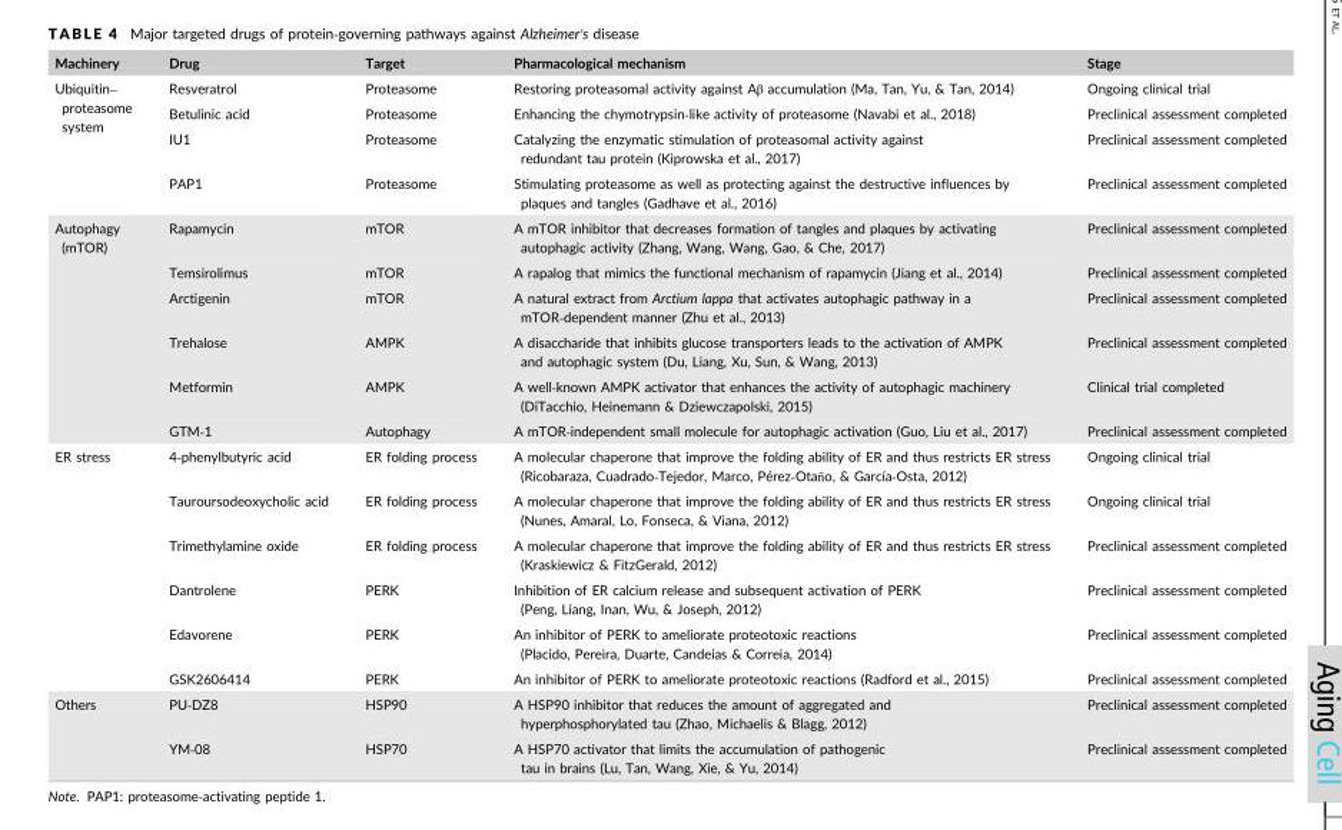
<table><thead><tr><td>Machinery</td><td>Drug</td><td>Target</td><td>Pharmacological mechanism</td><td>Stage</td></tr></thead><tbody><tr><td rowspan="4">Ubiquitin– proteasome system</td><td>Resveratrol</td><td>Proteasome</td><td>Restoring proteasomal activity against Aβ accumulation (Ma, Tan, Yu, &amp; Tan, 2014)</td><td>Ongoing clinical trial</td></tr><tr><td>Betulinic acid</td><td>Proteasome</td><td>Enhancing the chymotrypsin‐like activity of proteasome (Navabi et al., 2018)</td><td>Preclinical assessment completed</td></tr><tr><td>IU1</td><td>Proteasome</td><td>Catalyzing the enzymatic stimulation of proteasomal activity against redundant tau protein (Kiprowska et al., 2017)</td><td>Preclinical assessment completed</td></tr><tr><td>PAP1</td><td>Proteasome</td><td>Stimulating proteasome as well as protecting against the destructive influences by plaques and tangles (Gadhave et al., 2016)</td><td>Preclinical assessment completed</td></tr><tr><td rowspan="6">Autophagy (mTOR)</td><td>Rapamycin</td><td>mTOR</td><td>A mTOR inhibitor that decreases formation of tangles and plaques by activating autophagic activity (Zhang, Wang, Wang, Gao, &amp; Che, 2017)</td><td>Preclinical assessment completed</td></tr><tr><td>Temsirolimus</td><td>mTOR</td><td>A rapalog that mimics the functional mechanism of rapamycin (Jiang et al., 2014)</td><td>Preclinical assessment completed</td></tr><tr><td>Arctigenin</td><td>mTOR</td><td>A natural extract from Arctium lappa that activates autophagic pathway in a mTOR‐dependent manner (Zhu et al., 2013)</td><td>Preclinical assessment completed</td></tr><tr><td>Trehalose</td><td>AMPK</td><td>A disaccharide that inhibits glucose transporters leads to the activation of AMPK and autophagic system (Du, Liang, Xu, Sun, &amp; Wang, 2013)</td><td>Preclinical assessment completed</td></tr><tr><td>Metformin</td><td>AMPK</td><td>A well‐known AMPK activator that enhances the activity of autophagic machinery (DiTacchio, Heinemann &amp; Dziewczapolski, 2015)</td><td>Clinical trial completed</td></tr><tr><td>GTM‐1</td><td>Autophagy</td><td>A mTOR‐independent small molecule for autophagic activation (Guo, Liu et al., 2017)</td><td>Preclinical assessment completed</td></tr><tr><td rowspan="6">ER stress</td><td>4‐phenylbutyric acid</td><td>ER folding process</td><td>A molecular chaperone that improve the folding ability of ER and thus restricts ER stress (Ricobaraza, Cuadrado‐Tejedor, Marco, Pérez‐Otaño, &amp; García‐Osta, 2012)</td><td>Ongoing clinical trial</td></tr><tr><td>Tauroursodeoxycholic acid</td><td>ER folding process</td><td>A molecular chaperone that improve the folding ability of ER and thus restricts ER stress (Nunes, Amaral, Lo, Fonseca, &amp; Viana, 2012)</td><td>Ongoing clinical trial</td></tr><tr><td>Trimethylamine oxide</td><td>ER folding process</td><td>A molecular chaperone that improve the folding ability of ER and thus restricts ER stress (Kraskiewicz &amp; FitzGerald, 2012)</td><td>Preclinical assessment completed</td></tr><tr><td>Dantrolene</td><td>PERK</td><td>Inhibition of ER calcium release and subsequent activation of PERK (Peng, Liang, Inan, Wu, &amp; Joseph, 2012)</td><td>Preclinical assessment completed</td></tr><tr><td>Edavorene</td><td>PERK</td><td>An inhibitor of PERK to ameliorate proteotoxic reactions (Placido, Pereira, Duarte, Candeias &amp; Correia, 2014)</td><td>Preclinical assessment completed</td></tr><tr><td>GSK2606414</td><td>PERK</td><td>An inhibitor of PERK to ameliorate proteotoxic reactions (Radford et al., 2015)</td><td>Preclinical assessment completed</td></tr><tr><td rowspan="2">Others</td><td>PU‐DZ8</td><td>HSP90</td><td>A HSP90 inhibitor that reduces the amount of aggregated and hyperphosphorylated tau (Zhao, Michaelis &amp; Blagg, 2012)</td><td>Preclinical assessment completed</td></tr><tr><td>YM‐08</td><td>HSP70</td><td>A HSP70 activator that limits the accumulation of pathogenic tau in brains (Lu, Tan, Wang, Xie, &amp; Yu, 2014)</td><td>Preclinical assessment completed</td></tr></tbody></table>